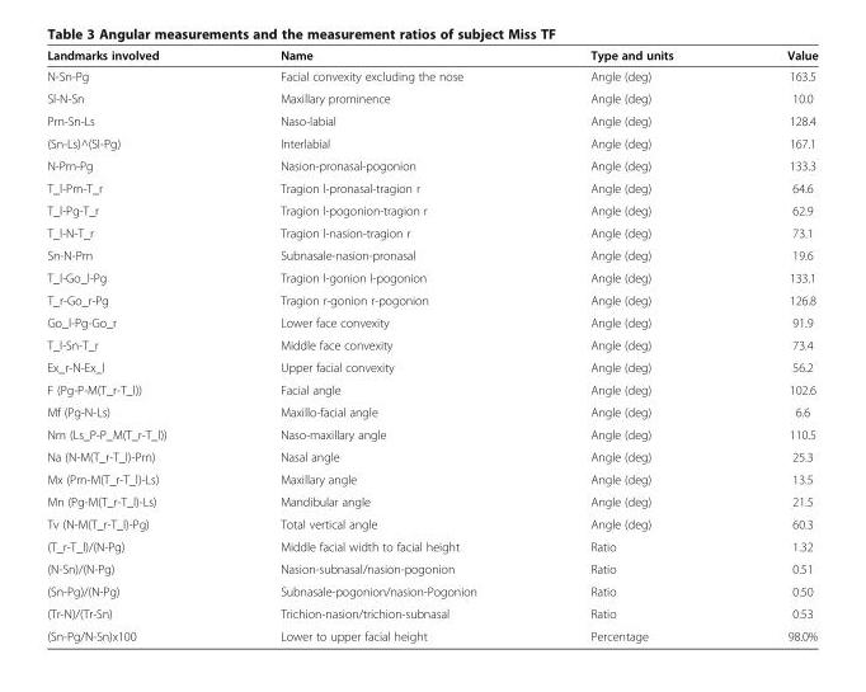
<table><thead><tr><td>Landmarks involved</td><td>Name</td><td>Type and units</td><td>Value</td></tr></thead><tbody><tr><td>N-Sn-Pg</td><td>Facial convexity excluding the nose</td><td>Angle (deg)</td><td>163.5</td></tr><tr><td>Sl-N-Sn</td><td>Maxillary prominence</td><td>Angle (deg)</td><td>10.0</td></tr><tr><td>Prn-Sn-Ls</td><td>Naso-labial</td><td>Angle (deg)</td><td>128.4</td></tr><tr><td>(Sn-Ls)^(Sl-Pg)</td><td>Interlabial</td><td>Angle (deg)</td><td>167.1</td></tr><tr><td>N-Prn-Pg</td><td>Nasion-pronasal-pogonion</td><td>Angle (deg)</td><td>133.3</td></tr><tr><td>T_l-Prn-T_r</td><td>Tragion l-pronasal-tragion r</td><td>Angle (deg)</td><td>64.6</td></tr><tr><td>T_l-Pg-T_r</td><td>Tragion l-pogonion-tragion r</td><td>Angle (deg)</td><td>62.9</td></tr><tr><td>T_l-N-T_r</td><td>Tragion l-nasion-tragion r</td><td>Angle (deg)</td><td>73.1</td></tr><tr><td>Sn-N-Prn</td><td>Subnasale-nasion-pronasal</td><td>Angle (deg)</td><td>19.6</td></tr><tr><td>T_l-Go_l-Pg</td><td>Tragion l-gonion l-pogonion</td><td>Angle (deg)</td><td>133.1</td></tr><tr><td>T_r-Go_r-Pg</td><td>Tragion r-gonion r-pogonion</td><td>Angle (deg)</td><td>126.8</td></tr><tr><td>Go_l-Pg-Go_r</td><td>Lower face convexity</td><td>Angle (deg)</td><td>91.9</td></tr><tr><td>T_l-Sn-T_r</td><td>Middle face convexity</td><td>Angle (deg)</td><td>73.4</td></tr><tr><td>Ex_r-N-Ex_l</td><td>Upper facial convexity</td><td>Angle (deg)</td><td>56.2</td></tr><tr><td>F (Pg-P-M(T_r-T_l))</td><td>Facial angle</td><td>Angle (deg)</td><td>102.6</td></tr><tr><td>Mf (Pg-N-Ls)</td><td>Maxillo-facial angle</td><td>Angle (deg)</td><td>6.6</td></tr><tr><td>Nm (Ls_P-P_M(T_r-T_l))</td><td>Naso-maxillary angle</td><td>Angle (deg)</td><td>110.5</td></tr><tr><td>Na (N-M(T_r-T_l)-Prn)</td><td>Nasal angle</td><td>Angle (deg)</td><td>25.3</td></tr><tr><td>Mx (Prn-M(T_r-T_l)-Ls)</td><td>Maxillary angle</td><td>Angle (deg)</td><td>13.5</td></tr><tr><td>Mn (Pg-M(T_r-T_l)-Ls)</td><td>Mandibular angle</td><td>Angle (deg)</td><td>21.5</td></tr><tr><td>Tv (N-M(T_r-T_l)-Pg)</td><td>Total vertical angle</td><td>Angle (deg)</td><td>60.3</td></tr><tr><td>(T_r-T_l)/(N-Pg)</td><td>Middle facial width to facial height</td><td>Ratio</td><td>1.32</td></tr><tr><td>(N-Sn)/(N-Pg)</td><td>Nasion-subnasal/nasion-pogonion</td><td>Ratio</td><td>0.51</td></tr><tr><td>(Sn-Pg)/(N-Pg)</td><td>Subnasale-pogonion/nasion-Pogonion</td><td>Ratio</td><td>0.50</td></tr><tr><td>(Tr-N)/(Tr-Sn)</td><td>Trichion-nasion/trichion-subnasal</td><td>Ratio</td><td>0.53</td></tr><tr><td>(Sn-Pg/N-Sn)x100</td><td>Lower to upper facial height</td><td>Percentage</td><td>98.0%</td></tr></tbody></table>